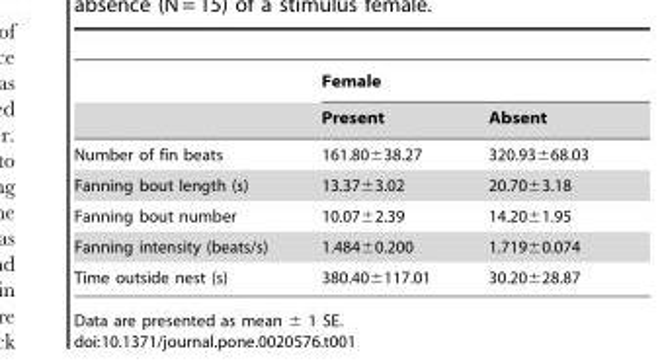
<table><thead><tr><td rowspan="2"></td><td colspan="2">Female</td></tr><tr><td>Present</td><td>Absent</td></tr></thead><tbody><tr><td>Number of fin beats</td><td>161.80±38.27</td><td>320.93±68.03</td></tr><tr><td>Fanning bout length (s)</td><td>13.37±3.02</td><td>20.70±3.18</td></tr><tr><td>Fanning bout number</td><td>10.07±2.39</td><td>14.20±1.95</td></tr><tr><td>Fanning intensity (beats/s)</td><td>1.484±0.200</td><td>1.719±0.074</td></tr><tr><td>Time outside nest (s)</td><td>380.40±117.01</td><td>30.20±28.87</td></tr></tbody></table>